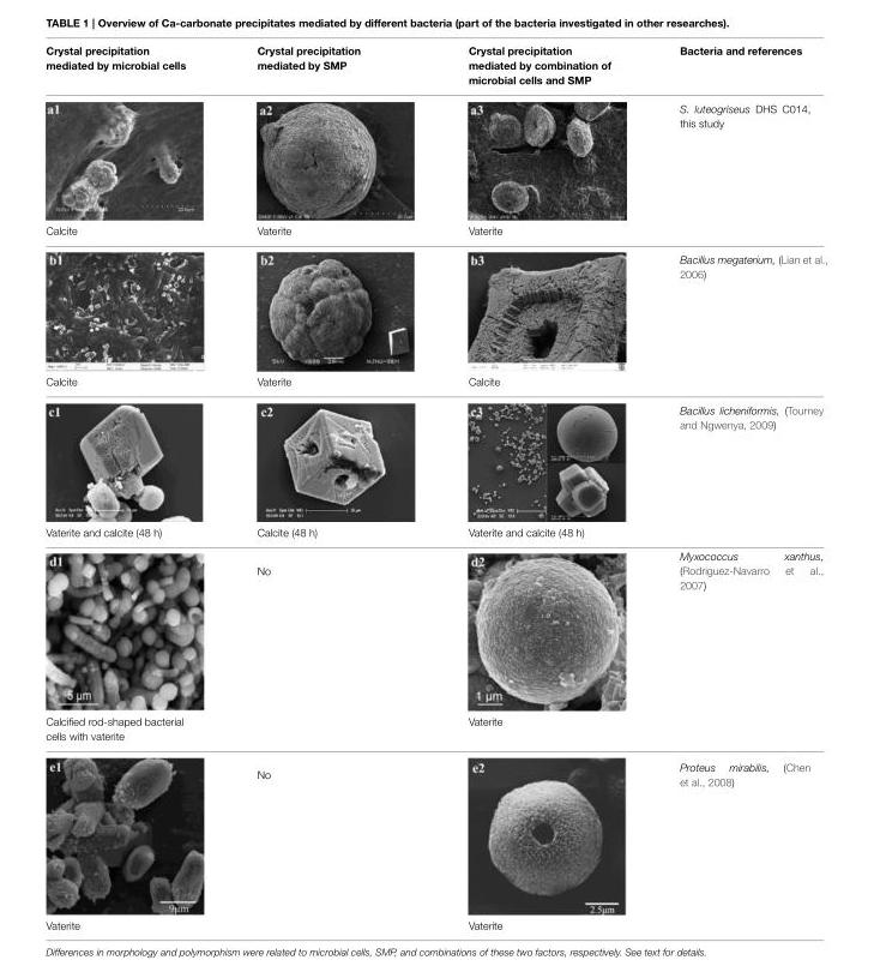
<table><thead><tr><td>Crystal precipitation mediated by microbial cells</td><td>Crystal precipitation mediated by SMP</td><td>Crystal precipitation mediated by combination of microbial cells and SMP</td><td>Bacteria and references</td></tr></thead><tbody><tr><td>Calcite</td><td>Vaterite</td><td>Vaterite</td><td>S. luteogriseus DHS C014, this study</td></tr><tr><td>Calcite</td><td>Vaterite</td><td>Calcite</td><td>Bacillus megaterium, (Lian et al., 2006)</td></tr><tr><td>Vaterite and calcite (48 h)</td><td>Calcite (48 h)</td><td>Vaterite and calcite (48 h)</td><td>Bacillus licheniformis, (Tourney and Ngwenya, 2009)</td></tr><tr><td>Calcified rod-shaped bacterial cells with vaterite</td><td>No</td><td>Vaterite</td><td>Myxococcus xanthus, (Rodriguez-Navarro et al., 2007)</td></tr><tr><td>Vaterite</td><td>No</td><td>Vaterite</td><td>Proteus mirabilis, (Chen et al., 2008)</td></tr></tbody></table>